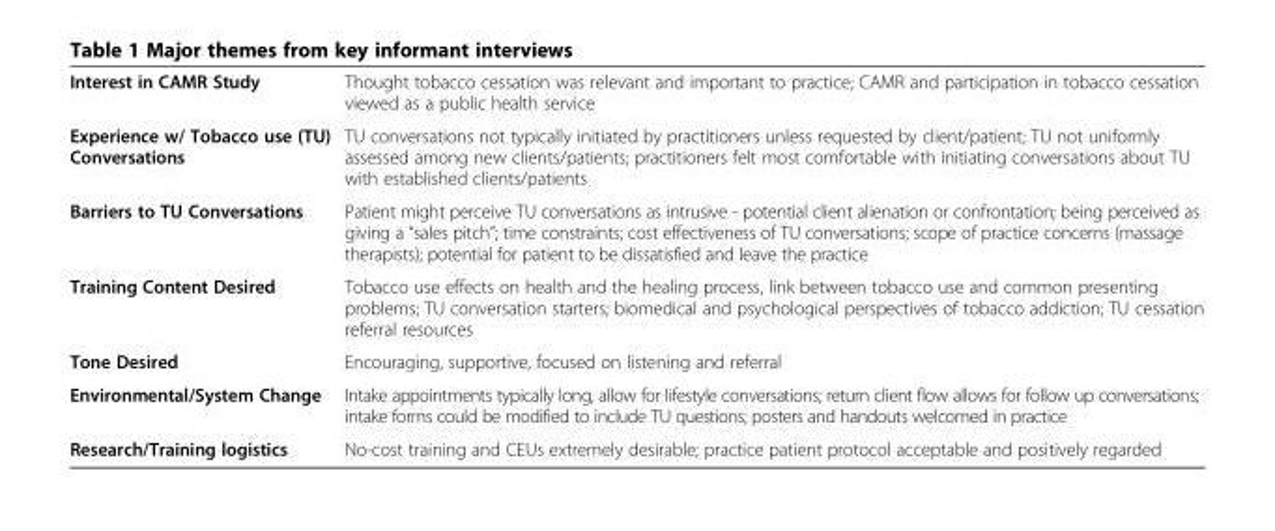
<table><tbody><tr><td>Interest in CAMR Study</td><td>Thought tobacco cessation was relevant and important to practice; CAMR and participation in tobacco cessation viewed as a public health service</td></tr><tr><td>Experience w/ Tobacco use (TU) Conversations</td><td>TU conversations not typically initiated by practitioners unless requested by client/patient; TU not uniformly assessed among new clients/patients; practitioners felt most comfortable with initiating conversations about TU with established clients/patients</td></tr><tr><td>Barriers to TU Conversations</td><td>Patient might perceive TU conversations as intrusive - potential client alienation or confrontation; being perceived as giving a “sales pitch”; time constraints; cost effectiveness of TU conversations; scope of practice concerns (massage therapists); potential for patient to be dissatisfied and leave the practice</td></tr><tr><td>Training Content Desired</td><td>Tobacco use effects on health and the healing process, link between tobacco use and common presenting problems; TU conversation starters; biomedical and psychological perspectives of tobacco addiction; TU cessation referral resources</td></tr><tr><td>Tone Desired</td><td>Encouraging, supportive, focused on listening and referral</td></tr><tr><td>Environmental/System Change</td><td>Intake appointments typically long, allow for lifestyle conversations; return client flow allows for follow up conversations; intake forms could be modified to include TU questions; posters and handouts welcomed in practice</td></tr><tr><td>Research/Training logistics</td><td>No-cost training and CEUs extremely desirable; practice patient protocol acceptable and positively regarded</td></tr></tbody></table>